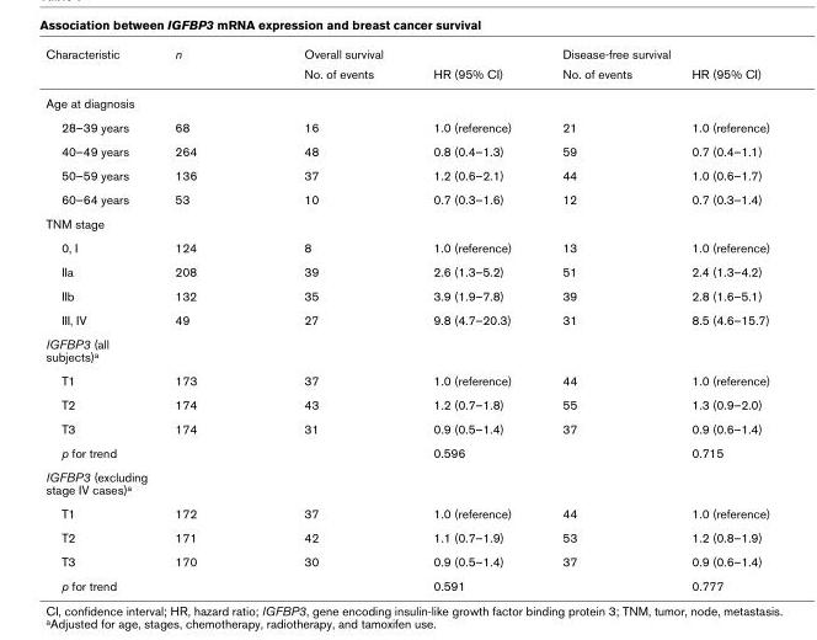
<table><thead><tr><td rowspan="2">Characteristic</td><td rowspan="2">n</td><td colspan="2">Overall survival</td><td colspan="2">Disease-free survival</td></tr><tr><td>No. of events</td><td>HR (95% CI)</td><td>No. of events</td><td>HR (95% CI)</td></tr></thead><tbody><tr><td colspan="6">Age at diagnosis</td></tr><tr><td>28–39 years</td><td>68</td><td>16</td><td>1.0 (reference)</td><td>21</td><td>1.0 (reference)</td></tr><tr><td>40–49 years</td><td>264</td><td>48</td><td>0.8 (0.4–1.3)</td><td>59</td><td>0.7 (0.4–1.1)</td></tr><tr><td>50–59 years</td><td>136</td><td>37</td><td>1.2 (0.6–2.1)</td><td>44</td><td>1.0 (0.6–1.7)</td></tr><tr><td>60–64 years</td><td>53</td><td>10</td><td>0.7 (0.3–1.6)</td><td>12</td><td>0.7 (0.3–1.4)</td></tr><tr><td colspan="6">TNM stage</td></tr><tr><td>0, I</td><td>124</td><td>8</td><td>1.0 (reference)</td><td>13</td><td>1.0 (reference)</td></tr><tr><td>IIa</td><td>208</td><td>39</td><td>2.6 (1.3–5.2)</td><td>51</td><td>2.4 (1.3–4.2)</td></tr><tr><td>IIb</td><td>132</td><td>35</td><td>3.9 (1.9–7.8)</td><td>39</td><td>2.8 (1.6–5.1)</td></tr><tr><td>III, IV</td><td>49</td><td>27</td><td>9.8 (4.7–20.3)</td><td>31</td><td>8.5 (4.6–15.7)</td></tr><tr><td colspan="6">IGFBP3 (all subjects)a</td></tr><tr><td>T1</td><td>173</td><td>37</td><td>1.0 (reference)</td><td>44</td><td>1.0 (reference)</td></tr><tr><td>T2</td><td>174</td><td>43</td><td>1.2 (0.7–1.8)</td><td>55</td><td>1.3 (0.9–2.0)</td></tr><tr><td>T3</td><td>174</td><td>31</td><td>0.9 (0.5–1.4)</td><td>37</td><td>0.9 (0.6–1.4)</td></tr><tr><td>p for trend</td><td></td><td></td><td>0.596</td><td></td><td>0.715</td></tr><tr><td colspan="6">IGFBP3 (excluding stage IV cases)a</td></tr><tr><td>T1</td><td>172</td><td>37</td><td>1.0 (reference)</td><td>44</td><td>1.0 (reference)</td></tr><tr><td>T2</td><td>171</td><td>42</td><td>1.1 (0.7–1.9)</td><td>53</td><td>1.2 (0.8–1.9)</td></tr><tr><td>T3</td><td>170</td><td>30</td><td>0.9 (0.5–1.4)</td><td>37</td><td>0.9 (0.6–1.4)</td></tr><tr><td>p for trend</td><td></td><td></td><td>0.591</td><td></td><td>0.777</td></tr></tbody></table>